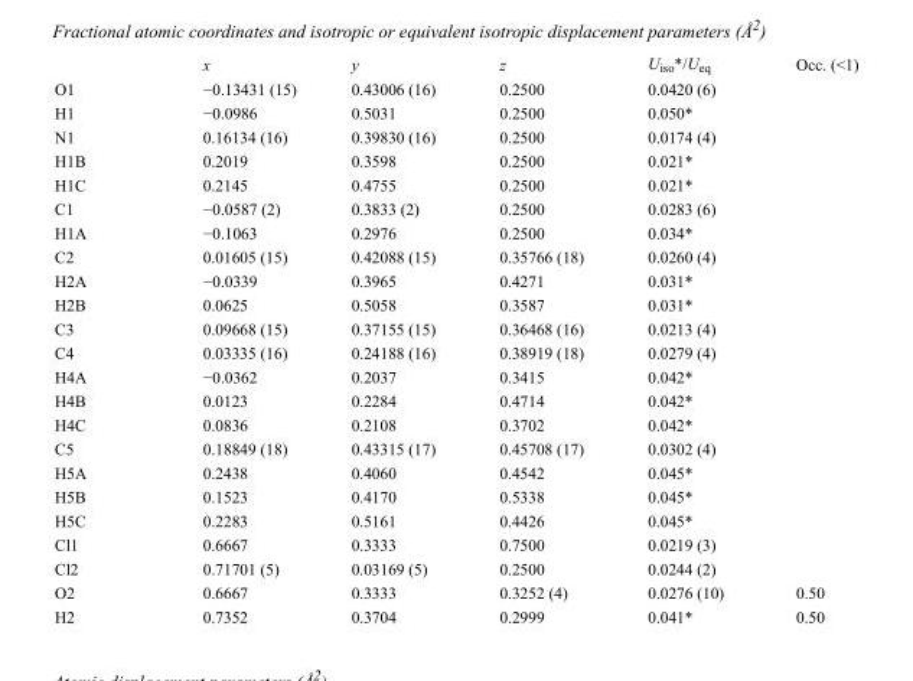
<table><thead><tr><td></td><td>x</td><td>y</td><td>z</td><td>U<sub>iso</sub>*/U<sub>eq</sub></td><td>Occ. (&lt;1)</td></tr></thead><tbody><tr><td>O1</td><td>−0.13431 (15)</td><td>0.43006 (16)</td><td>0.2500</td><td>0.0420 (6)</td><td></td></tr><tr><td>H1</td><td>−0.0986</td><td>0.5031</td><td>0.2500</td><td>0.050*</td><td></td></tr><tr><td>N1</td><td>0.16134 (16)</td><td>0.39830 (16)</td><td>0.2500</td><td>0.0174 (4)</td><td></td></tr><tr><td>H1B</td><td>0.2019</td><td>0.3598</td><td>0.2500</td><td>0.021*</td><td></td></tr><tr><td>H1C</td><td>0.2145</td><td>0.4755</td><td>0.2500</td><td>0.021*</td><td></td></tr><tr><td>C1</td><td>−0.0587 (2)</td><td>0.3833 (2)</td><td>0.2500</td><td>0.0283 (6)</td><td></td></tr><tr><td>H1A</td><td>−0.1063</td><td>0.2976</td><td>0.2500</td><td>0.034*</td><td></td></tr><tr><td>C2</td><td>0.01605 (15)</td><td>0.42088 (15)</td><td>0.35766 (18)</td><td>0.0260 (4)</td><td></td></tr><tr><td>H2A</td><td>−0.0339</td><td>0.3965</td><td>0.4271</td><td>0.031*</td><td></td></tr><tr><td>H2B</td><td>0.0625</td><td>0.5058</td><td>0.3587</td><td>0.031*</td><td></td></tr><tr><td>C3</td><td>0.09668 (15)</td><td>0.37155 (15)</td><td>0.36468 (16)</td><td>0.0213 (4)</td><td></td></tr><tr><td>C4</td><td>0.03335 (16)</td><td>0.24188 (16)</td><td>0.38919 (18)</td><td>0.0279 (4)</td><td></td></tr><tr><td>H4A</td><td>−0.0362</td><td>0.2037</td><td>0.3415</td><td>0.042*</td><td></td></tr><tr><td>H4B</td><td>0.0123</td><td>0.2284</td><td>0.4714</td><td>0.042*</td><td></td></tr><tr><td>H4C</td><td>0.0836</td><td>0.2108</td><td>0.3702</td><td>0.042*</td><td></td></tr><tr><td>C5</td><td>0.18849 (18)</td><td>0.43315 (17)</td><td>0.45708 (17)</td><td>0.0302 (4)</td><td></td></tr><tr><td>H5A</td><td>0.2438</td><td>0.4060</td><td>0.4542</td><td>0.045*</td><td></td></tr><tr><td>H5B</td><td>0.1523</td><td>0.4170</td><td>0.5338</td><td>0.045*</td><td></td></tr><tr><td>H5C</td><td>0.2283</td><td>0.5161</td><td>0.4426</td><td>0.045*</td><td></td></tr><tr><td>Cl1</td><td>0.6667</td><td>0.3333</td><td>0.7500</td><td>0.0219 (3)</td><td></td></tr><tr><td>Cl2</td><td>0.71701 (5)</td><td>0.03169 (5)</td><td>0.2500</td><td>0.0244 (2)</td><td></td></tr><tr><td>O2</td><td>0.6667</td><td>0.3333</td><td>0.3252 (4)</td><td>0.0276 (10)</td><td>0.50</td></tr><tr><td>H2</td><td>0.7352</td><td>0.3704</td><td>0.2999</td><td>0.041*</td><td>0.50</td></tr></tbody></table>